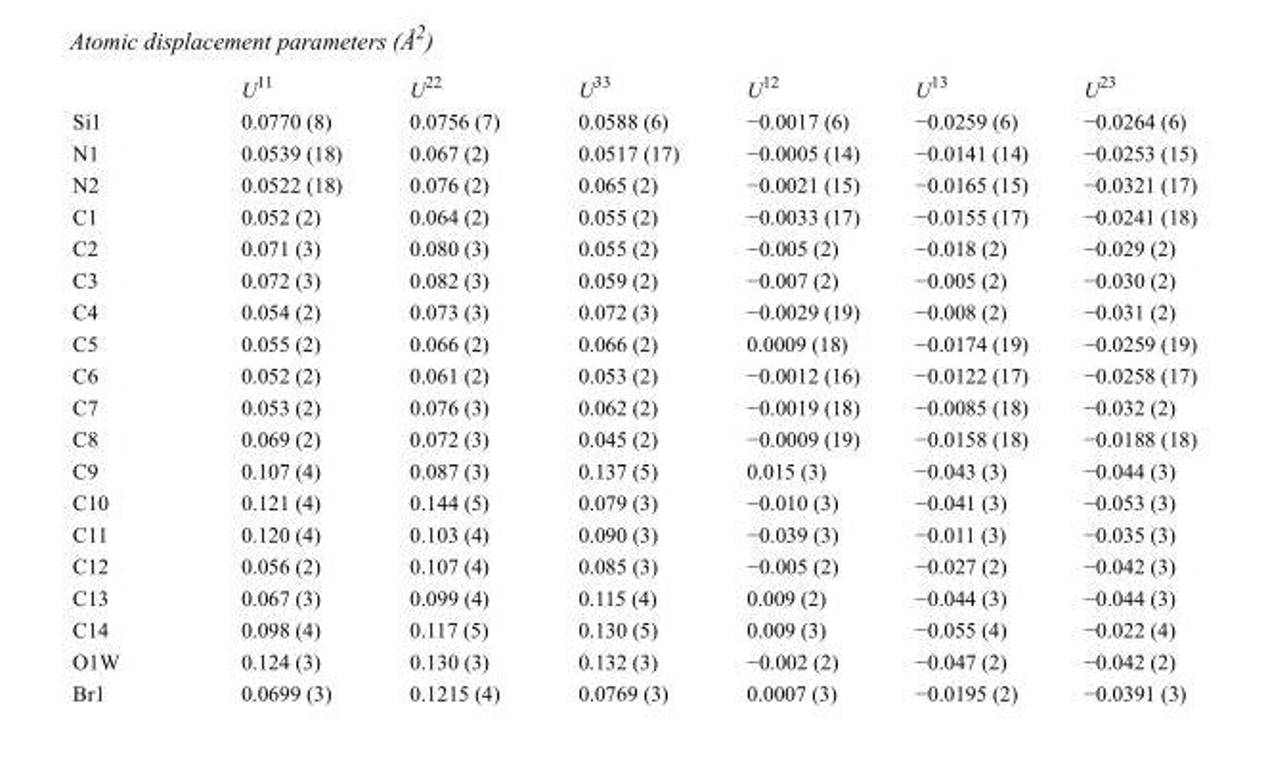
<table><thead><tr><td></td><td>U<sup>11</sup></td><td>U<sup>22</sup></td><td>U<sup>33</sup></td><td>U<sup>12</sup></td><td>U<sup>13</sup></td><td>U<sup>23</sup></td></tr></thead><tbody><tr><td>Si1</td><td>0.0770 (8)</td><td>0.0756 (7)</td><td>0.0588 (6)</td><td>−0.0017 (6)</td><td>−0.0259 (6)</td><td>−0.0264 (6)</td></tr><tr><td>N1</td><td>0.0539 (18)</td><td>0.067 (2)</td><td>0.0517 (17)</td><td>−0.0005 (14)</td><td>−0.0141 (14)</td><td>−0.0253 (15)</td></tr><tr><td>N2</td><td>0.0522 (18)</td><td>0.076 (2)</td><td>0.065 (2)</td><td>−0.0021 (15)</td><td>−0.0165 (15)</td><td>−0.0321 (17)</td></tr><tr><td>C1</td><td>0.052 (2)</td><td>0.064 (2)</td><td>0.055 (2)</td><td>−0.0033 (17)</td><td>−0.0155 (17)</td><td>−0.0241 (18)</td></tr><tr><td>C2</td><td>0.071 (3)</td><td>0.080 (3)</td><td>0.055 (2)</td><td>−0.005 (2)</td><td>−0.018 (2)</td><td>−0.029 (2)</td></tr><tr><td>C3</td><td>0.072 (3)</td><td>0.082 (3)</td><td>0.059 (2)</td><td>−0.007 (2)</td><td>−0.005 (2)</td><td>−0.030 (2)</td></tr><tr><td>C4</td><td>0.054 (2)</td><td>0.073 (3)</td><td>0.072 (3)</td><td>−0.0029 (19)</td><td>−0.008 (2)</td><td>−0.031 (2)</td></tr><tr><td>C5</td><td>0.055 (2)</td><td>0.066 (2)</td><td>0.066 (2)</td><td>0.0009 (18)</td><td>−0.0174 (19)</td><td>−0.0259 (19)</td></tr><tr><td>C6</td><td>0.052 (2)</td><td>0.061 (2)</td><td>0.053 (2)</td><td>−0.0012 (16)</td><td>−0.0122 (17)</td><td>−0.0258 (17)</td></tr><tr><td>C7</td><td>0.053 (2)</td><td>0.076 (3)</td><td>0.062 (2)</td><td>−0.0019 (18)</td><td>−0.0085 (18)</td><td>−0.032 (2)</td></tr><tr><td>C8</td><td>0.069 (2)</td><td>0.072 (3)</td><td>0.045 (2)</td><td>−0.0009 (19)</td><td>−0.0158 (18)</td><td>−0.0188 (18)</td></tr><tr><td>C9</td><td>0.107 (4)</td><td>0.087 (3)</td><td>0.137 (5)</td><td>0.015 (3)</td><td>−0.043 (3)</td><td>−0.044 (3)</td></tr><tr><td>C10</td><td>0.121 (4)</td><td>0.144 (5)</td><td>0.079 (3)</td><td>−0.010 (3)</td><td>−0.041 (3)</td><td>−0.053 (3)</td></tr><tr><td>C11</td><td>0.120 (4)</td><td>0.103 (4)</td><td>0.090 (3)</td><td>−0.039 (3)</td><td>−0.011 (3)</td><td>−0.035 (3)</td></tr><tr><td>C12</td><td>0.056 (2)</td><td>0.107 (4)</td><td>0.085 (3)</td><td>−0.005 (2)</td><td>−0.027 (2)</td><td>−0.042 (3)</td></tr><tr><td>C13</td><td>0.067 (3)</td><td>0.099 (4)</td><td>0.115 (4)</td><td>0.009 (2)</td><td>−0.044 (3)</td><td>−0.044 (3)</td></tr><tr><td>C14</td><td>0.098 (4)</td><td>0.117 (5)</td><td>0.130 (5)</td><td>0.009 (3)</td><td>−0.055 (4)</td><td>−0.022 (4)</td></tr><tr><td>O1W</td><td>0.124 (3)</td><td>0.130 (3)</td><td>0.132 (3)</td><td>−0.002 (2)</td><td>−0.047 (2)</td><td>−0.042 (2)</td></tr><tr><td>Br1</td><td>0.0699 (3)</td><td>0.1215 (4)</td><td>0.0769 (3)</td><td>0.0007 (3)</td><td>−0.0195 (2)</td><td>−0.0391 (3)</td></tr></tbody></table>